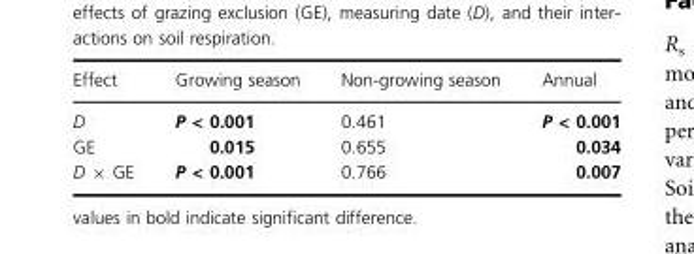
<table><thead><tr><td>Effect</td><td>Growing season</td><td>Non-growing season</td><td>Annual</td></tr></thead><tbody><tr><td>D</td><td>P &lt; 0.001</td><td>0.461</td><td>P &lt; 0.001</td></tr><tr><td>GE</td><td>0.015</td><td>0.655</td><td>0.034</td></tr><tr><td>D × GE</td><td>P &lt; 0.001</td><td>0.766</td><td>0.007</td></tr></tbody></table>